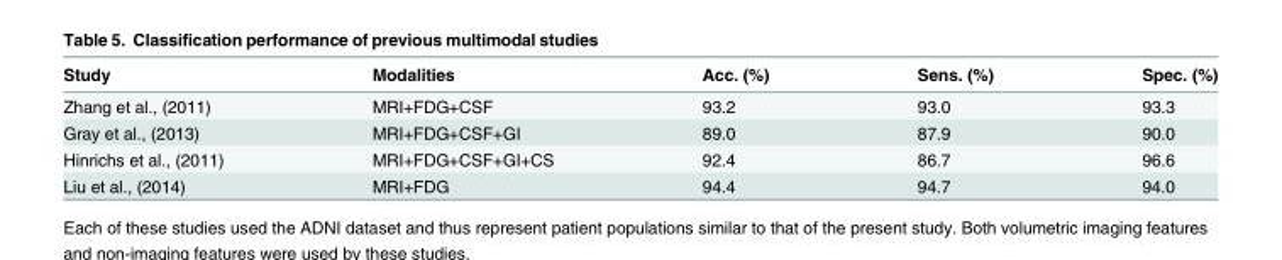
<table><thead><tr><td>Study</td><td>Modalities</td><td>Acc. (%)</td><td>Sens. (%)</td><td>Spec. (%)</td></tr></thead><tbody><tr><td>Zhang et al., (2011)</td><td>MRI+FDG+CSF</td><td>93.2</td><td>93.0</td><td>93.3</td></tr><tr><td>Gray et al., (2013)</td><td>MRI+FDG+CSF+GI</td><td>89.0</td><td>87.9</td><td>90.0</td></tr><tr><td>Hinrichs et al., (2011)</td><td>MRI+FDG+CSF+GI+CS</td><td>92.4</td><td>86.7</td><td>96.6</td></tr><tr><td>Liu et al., (2014)</td><td>MRI+FDG</td><td>94.4</td><td>94.7</td><td>94.0</td></tr></tbody></table>